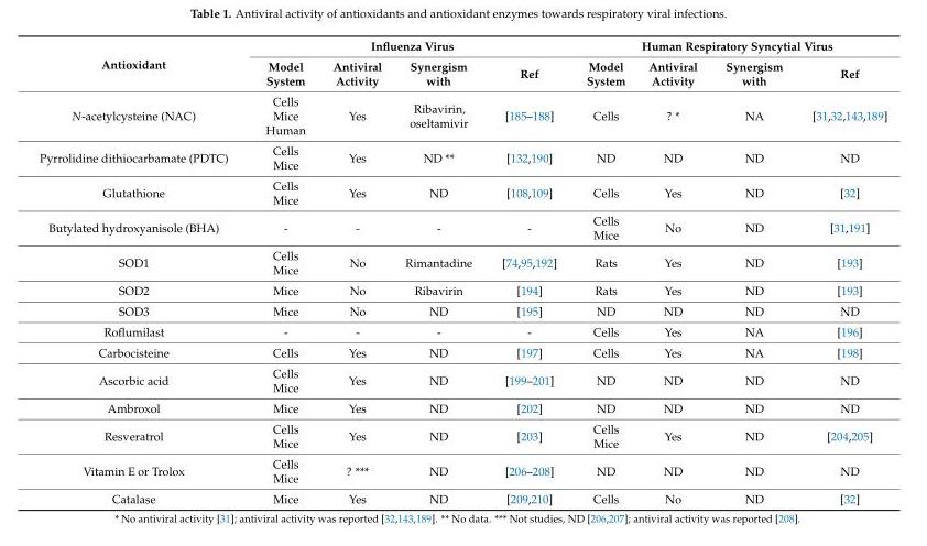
<table><thead><tr><td rowspan="2">Antioxidant</td><td colspan="4">Influenza Virus</td><td colspan="4">Human Respiratory Syncytial Virus</td></tr><tr><td>Model System</td><td>Antiviral Activity</td><td>Synergism with</td><td>Ref</td><td>Model System</td><td>Antiviral Activity</td><td>Synergism with</td><td>Ref</td></tr></thead><tbody><tr><td>N-acetylcysteine (NAC)</td><td>Cells Mice Human</td><td>Yes</td><td>Ribavirin, oseltamivir</td><td>[185–188]</td><td>Cells</td><td>? *</td><td>NA</td><td>[31,32,143,189]</td></tr><tr><td>Pyrrolidine dithiocarbamate (PDTC)</td><td>Cells Mice</td><td>Yes</td><td>ND **</td><td>[132,190]</td><td>ND</td><td>ND</td><td>ND</td><td>ND</td></tr><tr><td>Glutathione</td><td>Cells Mice</td><td>Yes</td><td>ND</td><td>[108,109]</td><td>Cells</td><td>Yes</td><td>ND</td><td>[32]</td></tr><tr><td>Butylated hydroxyanisole (BHA)</td><td>-</td><td>-</td><td>-</td><td>-</td><td>Cells Mice</td><td>No</td><td>ND</td><td>[31,191]</td></tr><tr><td>SOD1</td><td>Cells Mice</td><td>No</td><td>Rimantadine</td><td>[74,95,192]</td><td>Rats</td><td>Yes</td><td>ND</td><td>[193]</td></tr><tr><td>SOD2</td><td>Mice</td><td>No</td><td>Ribavirin</td><td>[194]</td><td>Rats</td><td>Yes</td><td>ND</td><td>[193]</td></tr><tr><td>SOD3</td><td>Mice</td><td>No</td><td>ND</td><td>[195]</td><td>ND</td><td>ND</td><td>ND</td><td>ND</td></tr><tr><td>Roflumilast</td><td>-</td><td>-</td><td>-</td><td>-</td><td>Cells</td><td>Yes</td><td>NA</td><td>[196]</td></tr><tr><td>Carbocisteine</td><td>Cells</td><td>Yes</td><td>ND</td><td>[197]</td><td>Cells</td><td>Yes</td><td>NA</td><td>[198]</td></tr><tr><td>Ascorbic acid</td><td>Cells Mice</td><td>Yes</td><td>ND</td><td>[199–201]</td><td>ND</td><td>ND</td><td>ND</td><td>ND</td></tr><tr><td>Ambroxol</td><td>Mice</td><td>Yes</td><td>ND</td><td>[202]</td><td>ND</td><td>ND</td><td>ND</td><td>ND</td></tr><tr><td>Resveratrol</td><td>Cells Mice</td><td>Yes</td><td>ND</td><td>[203]</td><td>Cells Mice</td><td>Yes</td><td>ND</td><td>[204,205]</td></tr><tr><td>Vitamin E or Trolox</td><td>Cells Mice</td><td>? ***</td><td>ND</td><td>[206–208]</td><td>ND</td><td>ND</td><td>ND</td><td>ND</td></tr><tr><td>Catalase</td><td>Mice</td><td>Yes</td><td>ND</td><td>[209,210]</td><td>Cells</td><td>No</td><td>ND</td><td>[32]</td></tr></tbody></table>